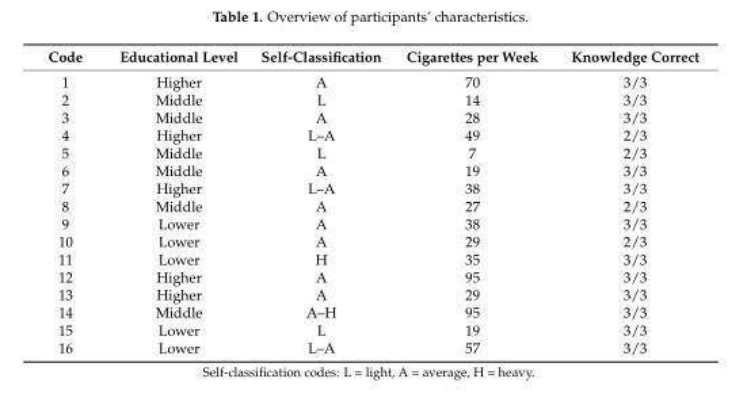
<table><thead><tr><td>Code</td><td>Educational Level</td><td>Self-Classification</td><td>Cigarettes per Week</td><td>Knowledge Correct</td></tr></thead><tbody><tr><td>1</td><td>Higher</td><td>A</td><td>70</td><td>3/3</td></tr><tr><td>2</td><td>Middle</td><td>L</td><td>14</td><td>3/3</td></tr><tr><td>3</td><td>Middle</td><td>A</td><td>28</td><td>3/3</td></tr><tr><td>4</td><td>Higher</td><td>L–A</td><td>49</td><td>2/3</td></tr><tr><td>5</td><td>Middle</td><td>L</td><td>7</td><td>2/3</td></tr><tr><td>6</td><td>Middle</td><td>A</td><td>19</td><td>3/3</td></tr><tr><td>7</td><td>Higher</td><td>L–A</td><td>38</td><td>3/3</td></tr><tr><td>8</td><td>Middle</td><td>A</td><td>27</td><td>2/3</td></tr><tr><td>9</td><td>Lower</td><td>A</td><td>38</td><td>3/3</td></tr><tr><td>10</td><td>Lower</td><td>A</td><td>29</td><td>2/3</td></tr><tr><td>11</td><td>Lower</td><td>H</td><td>35</td><td>3/3</td></tr><tr><td>12</td><td>Higher</td><td>A</td><td>95</td><td>3/3</td></tr><tr><td>13</td><td>Higher</td><td>A</td><td>29</td><td>3/3</td></tr><tr><td>14</td><td>Middle</td><td>A–H</td><td>95</td><td>3/3</td></tr><tr><td>15</td><td>Lower</td><td>L</td><td>19</td><td>3/3</td></tr><tr><td>16</td><td>Lower</td><td>L–A</td><td>57</td><td>3/3</td></tr></tbody></table>